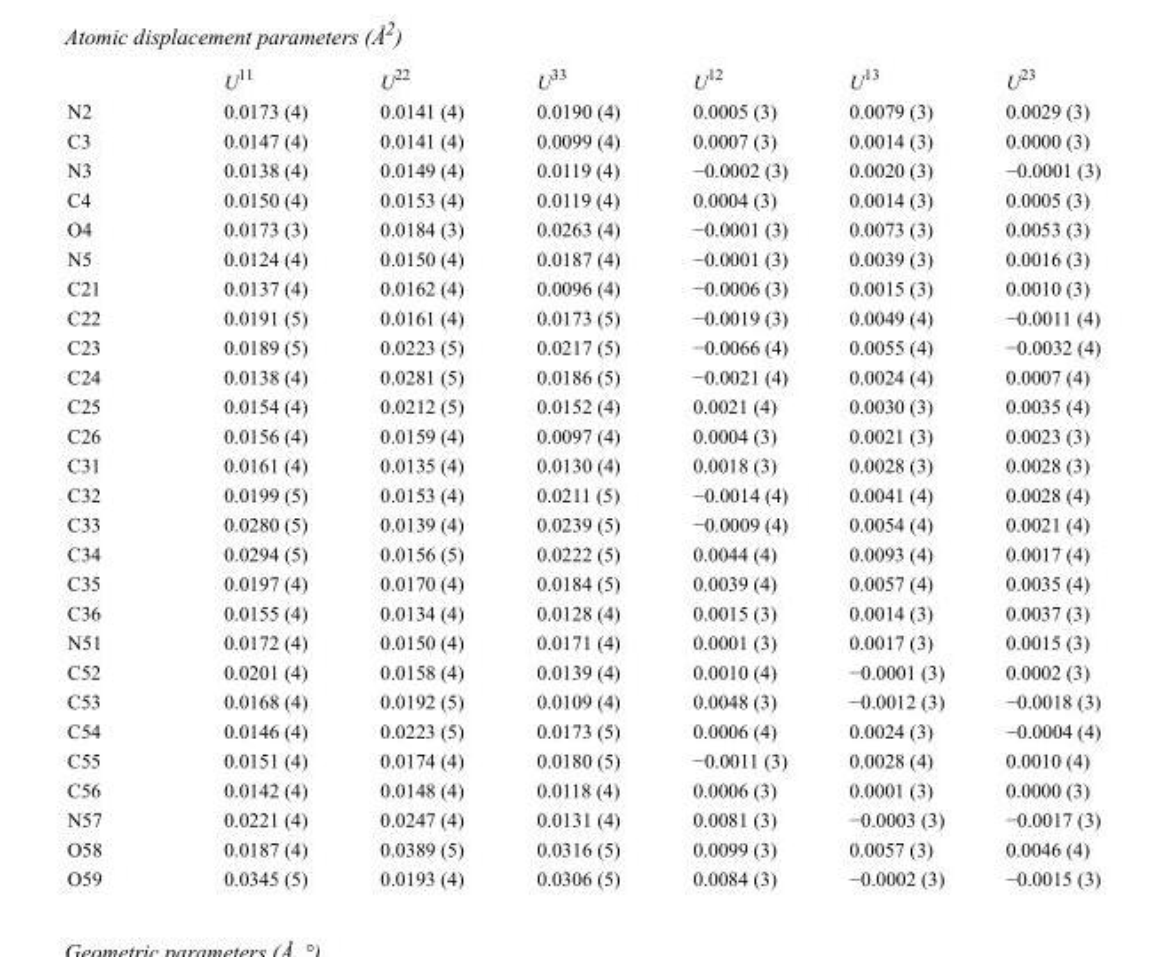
<table><thead><tr><td></td><td>U<sup>11</sup></td><td>U<sup>22</sup></td><td>U<sup>33</sup></td><td>U<sup>12</sup></td><td>U<sup>13</sup></td><td>U<sup>23</sup></td></tr></thead><tbody><tr><td>N2</td><td>0.0173 (4)</td><td>0.0141 (4)</td><td>0.0190 (4)</td><td>0.0005 (3)</td><td>0.0079 (3)</td><td>0.0029 (3)</td></tr><tr><td>C3</td><td>0.0147 (4)</td><td>0.0141 (4)</td><td>0.0099 (4)</td><td>0.0007 (3)</td><td>0.0014 (3)</td><td>0.0000 (3)</td></tr><tr><td>N3</td><td>0.0138 (4)</td><td>0.0149 (4)</td><td>0.0119 (4)</td><td>−0.0002 (3)</td><td>0.0020 (3)</td><td>−0.0001 (3)</td></tr><tr><td>C4</td><td>0.0150 (4)</td><td>0.0153 (4)</td><td>0.0119 (4)</td><td>0.0004 (3)</td><td>0.0014 (3)</td><td>0.0005 (3)</td></tr><tr><td>O4</td><td>0.0173 (3)</td><td>0.0184 (3)</td><td>0.0263 (4)</td><td>−0.0001 (3)</td><td>0.0073 (3)</td><td>0.0053 (3)</td></tr><tr><td>N5</td><td>0.0124 (4)</td><td>0.0150 (4)</td><td>0.0187 (4)</td><td>−0.0001 (3)</td><td>0.0039 (3)</td><td>0.0016 (3)</td></tr><tr><td>C21</td><td>0.0137 (4)</td><td>0.0162 (4)</td><td>0.0096 (4)</td><td>−0.0006 (3)</td><td>0.0015 (3)</td><td>0.0010 (3)</td></tr><tr><td>C22</td><td>0.0191 (5)</td><td>0.0161 (4)</td><td>0.0173 (5)</td><td>−0.0019 (3)</td><td>0.0049 (4)</td><td>−0.0011 (4)</td></tr><tr><td>C23</td><td>0.0189 (5)</td><td>0.0223 (5)</td><td>0.0217 (5)</td><td>−0.0066 (4)</td><td>0.0055 (4)</td><td>−0.0032 (4)</td></tr><tr><td>C24</td><td>0.0138 (4)</td><td>0.0281 (5)</td><td>0.0186 (5)</td><td>−0.0021 (4)</td><td>0.0024 (4)</td><td>0.0007 (4)</td></tr><tr><td>C25</td><td>0.0154 (4)</td><td>0.0212 (5)</td><td>0.0152 (4)</td><td>0.0021 (4)</td><td>0.0030 (3)</td><td>0.0035 (4)</td></tr><tr><td>C26</td><td>0.0156 (4)</td><td>0.0159 (4)</td><td>0.0097 (4)</td><td>0.0004 (3)</td><td>0.0021 (3)</td><td>0.0023 (3)</td></tr><tr><td>C31</td><td>0.0161 (4)</td><td>0.0135 (4)</td><td>0.0130 (4)</td><td>0.0018 (3)</td><td>0.0028 (3)</td><td>0.0028 (3)</td></tr><tr><td>C32</td><td>0.0199 (5)</td><td>0.0153 (4)</td><td>0.0211 (5)</td><td>−0.0014 (4)</td><td>0.0041 (4)</td><td>0.0028 (4)</td></tr><tr><td>C33</td><td>0.0280 (5)</td><td>0.0139 (4)</td><td>0.0239 (5)</td><td>−0.0009 (4)</td><td>0.0054 (4)</td><td>0.0021 (4)</td></tr><tr><td>C34</td><td>0.0294 (5)</td><td>0.0156 (5)</td><td>0.0222 (5)</td><td>0.0044 (4)</td><td>0.0093 (4)</td><td>0.0017 (4)</td></tr><tr><td>C35</td><td>0.0197 (4)</td><td>0.0170 (4)</td><td>0.0184 (5)</td><td>0.0039 (4)</td><td>0.0057 (4)</td><td>0.0035 (4)</td></tr><tr><td>C36</td><td>0.0155 (4)</td><td>0.0134 (4)</td><td>0.0128 (4)</td><td>0.0015 (3)</td><td>0.0014 (3)</td><td>0.0037 (3)</td></tr><tr><td>N51</td><td>0.0172 (4)</td><td>0.0150 (4)</td><td>0.0171 (4)</td><td>0.0001 (3)</td><td>0.0017 (3)</td><td>0.0015 (3)</td></tr><tr><td>C52</td><td>0.0201 (4)</td><td>0.0158 (4)</td><td>0.0139 (4)</td><td>0.0010 (4)</td><td>−0.0001 (3)</td><td>0.0002 (3)</td></tr><tr><td>C53</td><td>0.0168 (4)</td><td>0.0192 (5)</td><td>0.0109 (4)</td><td>0.0048 (3)</td><td>−0.0012 (3)</td><td>−0.0018 (3)</td></tr><tr><td>C54</td><td>0.0146 (4)</td><td>0.0223 (5)</td><td>0.0173 (5)</td><td>0.0006 (4)</td><td>0.0024 (3)</td><td>−0.0004 (4)</td></tr><tr><td>C55</td><td>0.0151 (4)</td><td>0.0174 (4)</td><td>0.0180 (5)</td><td>−0.0011 (3)</td><td>0.0028 (4)</td><td>0.0010 (4)</td></tr><tr><td>C56</td><td>0.0142 (4)</td><td>0.0148 (4)</td><td>0.0118 (4)</td><td>0.0006 (3)</td><td>0.0001 (3)</td><td>0.0000 (3)</td></tr><tr><td>N57</td><td>0.0221 (4)</td><td>0.0247 (4)</td><td>0.0131 (4)</td><td>0.0081 (3)</td><td>−0.0003 (3)</td><td>−0.0017 (3)</td></tr><tr><td>O58</td><td>0.0187 (4)</td><td>0.0389 (5)</td><td>0.0316 (5)</td><td>0.0099 (3)</td><td>0.0057 (3)</td><td>0.0046 (4)</td></tr><tr><td>O59</td><td>0.0345 (5)</td><td>0.0193 (4)</td><td>0.0306 (5)</td><td>0.0084 (3)</td><td>−0.0002 (3)</td><td>−0.0015 (3)</td></tr></tbody></table>